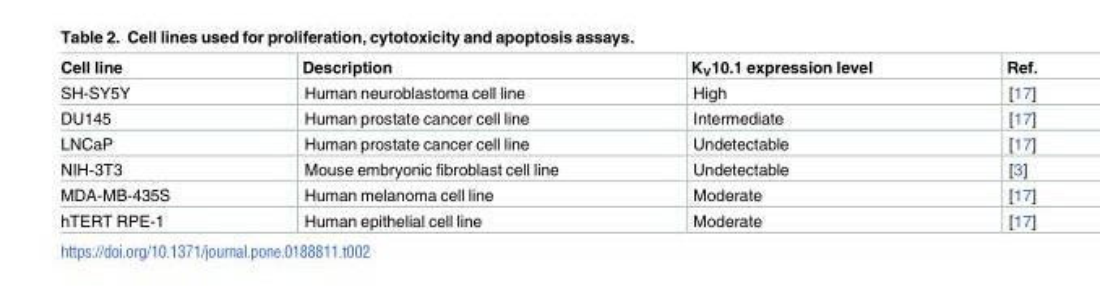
<table><thead><tr><td>Cell line</td><td>Description</td><td>K<sub>V</sub>10.1 expression level</td><td>Ref.</td></tr></thead><tbody><tr><td>SH-SY5Y</td><td>Human neuroblastoma cell line</td><td>High</td><td>[17]</td></tr><tr><td>DU145</td><td>Human prostate cancer cell line</td><td>Intermediate</td><td>[17]</td></tr><tr><td>LNCaP</td><td>Human prostate cancer cell line</td><td>Undetectable</td><td>[17]</td></tr><tr><td>NIH-3T3</td><td>Mouse embryonic fibroblast cell line</td><td>Undetectable</td><td>[3]</td></tr><tr><td>MDA-MB-435S</td><td>Human melanoma cell line</td><td>Moderate</td><td>[17]</td></tr><tr><td>hTERT RPE-1</td><td>Human epithelial cell line</td><td>Moderate</td><td>[17]</td></tr></tbody></table>